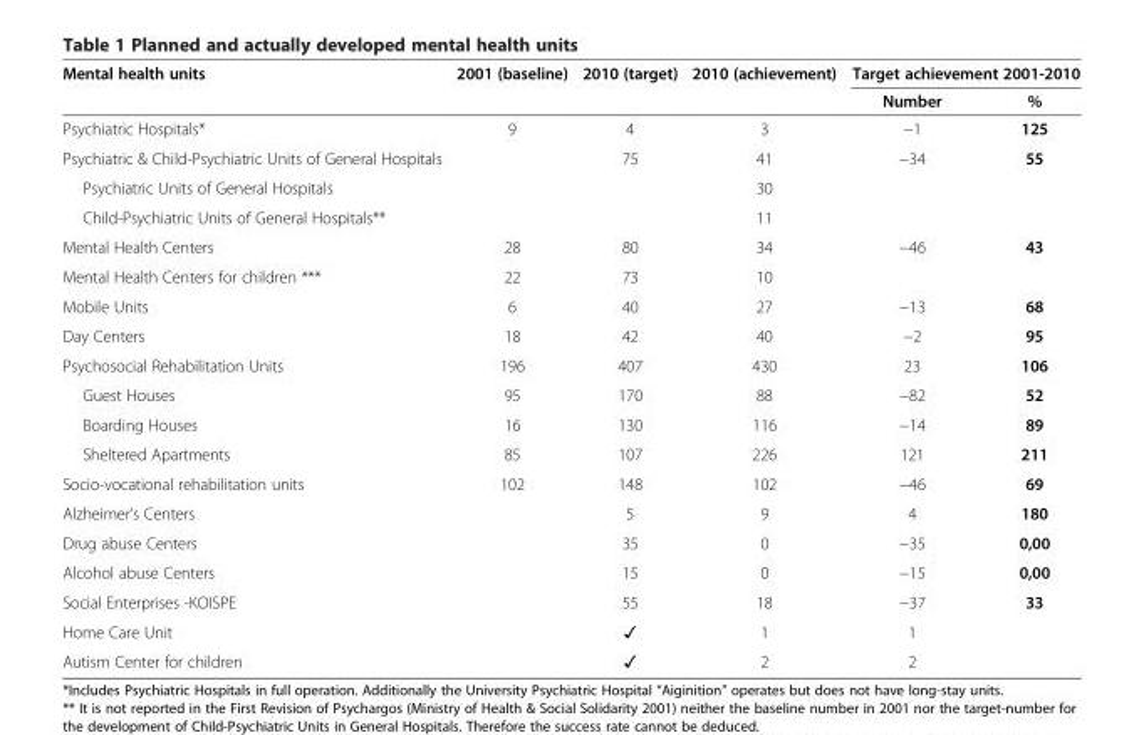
<table><thead><tr><td rowspan="2">Mental health units</td><td rowspan="2">2001 (baseline)</td><td rowspan="2">2010 (target)</td><td rowspan="2">2010 (achievement)</td><td colspan="2">Target achievement 2001-2010</td></tr><tr><td>Number</td><td>%</td></tr></thead><tbody><tr><td>Psychiatric Hospitals*</td><td>9</td><td>4</td><td>3</td><td>−1</td><td>125</td></tr><tr><td>Psychiatric &amp; Child-Psychiatric Units of General Hospitals</td><td></td><td>75</td><td>41</td><td>−34</td><td>55</td></tr><tr><td>Psychiatric Units of General Hospitals</td><td></td><td></td><td>30</td><td></td><td></td></tr><tr><td>Child-Psychiatric Units of General Hospitals**</td><td></td><td></td><td>11</td><td></td><td></td></tr><tr><td>Mental Health Centers</td><td>28</td><td>80</td><td>34</td><td>−46</td><td>43</td></tr><tr><td>Mental Health Centers for children ***</td><td>22</td><td>73</td><td>10</td><td></td><td></td></tr><tr><td>Mobile Units</td><td>6</td><td>40</td><td>27</td><td>−13</td><td>68</td></tr><tr><td>Day Centers</td><td>18</td><td>42</td><td>40</td><td>−2</td><td>95</td></tr><tr><td>Psychosocial Rehabilitation Units</td><td>196</td><td>407</td><td>430</td><td>23</td><td>106</td></tr><tr><td>Guest Houses</td><td>95</td><td>170</td><td>88</td><td>−82</td><td>52</td></tr><tr><td>Boarding Houses</td><td>16</td><td>130</td><td>116</td><td>−14</td><td>89</td></tr><tr><td>Sheltered Apartments</td><td>85</td><td>107</td><td>226</td><td>121</td><td>211</td></tr><tr><td>Socio-vocational rehabilitation units</td><td>102</td><td>148</td><td>102</td><td>−46</td><td>69</td></tr><tr><td>Alzheimer’s Centers</td><td></td><td>5</td><td>9</td><td>4</td><td>180</td></tr><tr><td>Drug abuse Centers</td><td></td><td>35</td><td>0</td><td>−35</td><td>0,00</td></tr><tr><td>Alcohol abuse Centers</td><td></td><td>15</td><td>0</td><td>−15</td><td>0,00</td></tr><tr><td>Social Enterprises -KOISPE</td><td></td><td>55</td><td>18</td><td>−37</td><td>33</td></tr><tr><td>Home Care Unit</td><td></td><td>✓</td><td>1</td><td>1</td><td></td></tr><tr><td>Autism Center for children</td><td></td><td>✓</td><td>2</td><td>2</td><td></td></tr></tbody></table>